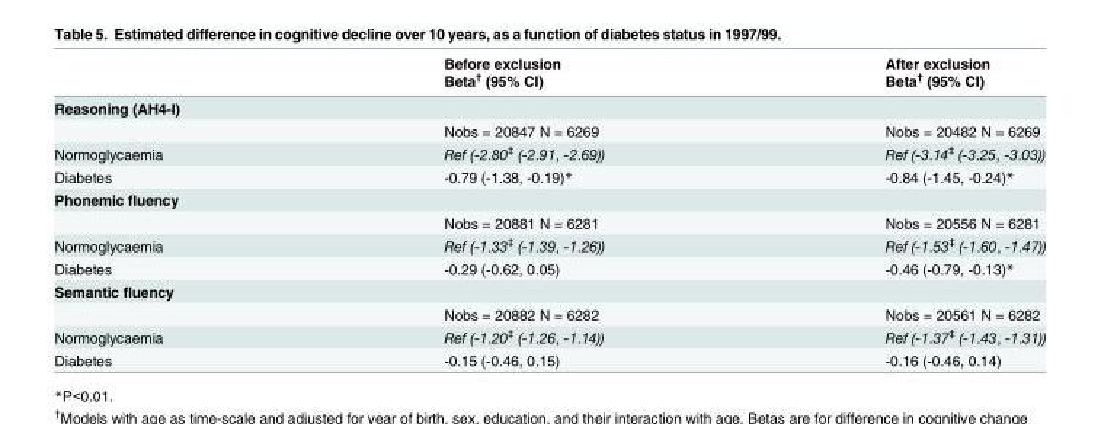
<table><thead><tr><td rowspan="2"></td><td rowspan="2">Before exclusion Beta<sup>†</sup> (95% CI)</td><td rowspan="2">After exclusion Beta<sup>†</sup> (95% CI)</td></tr><tr></tr></thead><tbody><tr><td colspan="3">Reasoning (AH4-I)</td></tr><tr><td></td><td>Nobs = 20847 N = 6269</td><td>Nobs = 20482 N = 6269</td></tr><tr><td>Normoglycaemia</td><td>Ref (-2.80<sup>‡</sup> (-2.91, -2.69))</td><td>Ref (-3.14<sup>‡</sup> (-3.25, -3.03))</td></tr><tr><td>Diabetes</td><td>-0.79 (-1.38, -0.19)*</td><td>-0.84 (-1.45, -0.24)*</td></tr><tr><td colspan="3">Phonemic fluency</td></tr><tr><td></td><td>Nobs = 20881 N = 6281</td><td>Nobs = 20556 N = 6281</td></tr><tr><td>Normoglycaemia</td><td>Ref (-1.33<sup>‡</sup> (-1.39, -1.26))</td><td>Ref (-1.53<sup>‡</sup> (-1.60, -1.47))</td></tr><tr><td>Diabetes</td><td>-0.29 (-0.62, 0.05)</td><td>-0.46 (-0.79, -0.13)*</td></tr><tr><td colspan="3">Semantic fluency</td></tr><tr><td></td><td>Nobs = 20882 N = 6282</td><td>Nobs = 20561 N = 6282</td></tr><tr><td>Normoglycaemia</td><td>Ref (-1.20<sup>‡</sup> (-1.26, -1.14))</td><td>Ref (-1.37<sup>‡</sup> (-1.43, -1.31))</td></tr><tr><td>Diabetes</td><td>-0.15 (-0.46, 0.15)</td><td>-0.16 (-0.46, 0.14)</td></tr></tbody></table>